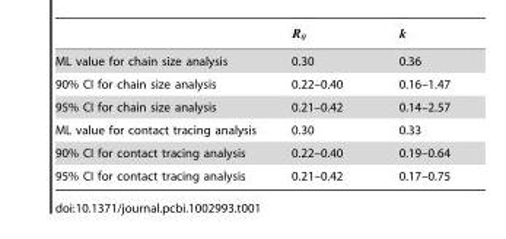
<table><tbody><tr><td>ML value for chain size analysis</td><td>0.30</td><td>0.36</td></tr><tr><td>90% CI for chain size analysis</td><td>0.22–0.40</td><td>0.16–1.47</td></tr><tr><td>95% CI for chain size analysis</td><td>0.21–0.42</td><td>0.14–2.57</td></tr><tr><td>ML value for contact tracing analysis</td><td>0.30</td><td>0.33</td></tr><tr><td>90% CI for contact tracing analysis</td><td>0.22–0.40</td><td>0.19–0.64</td></tr><tr><td>95% CI for contact tracing analysis</td><td>0.21–0.42</td><td>0.17–0.75</td></tr></tbody></table>